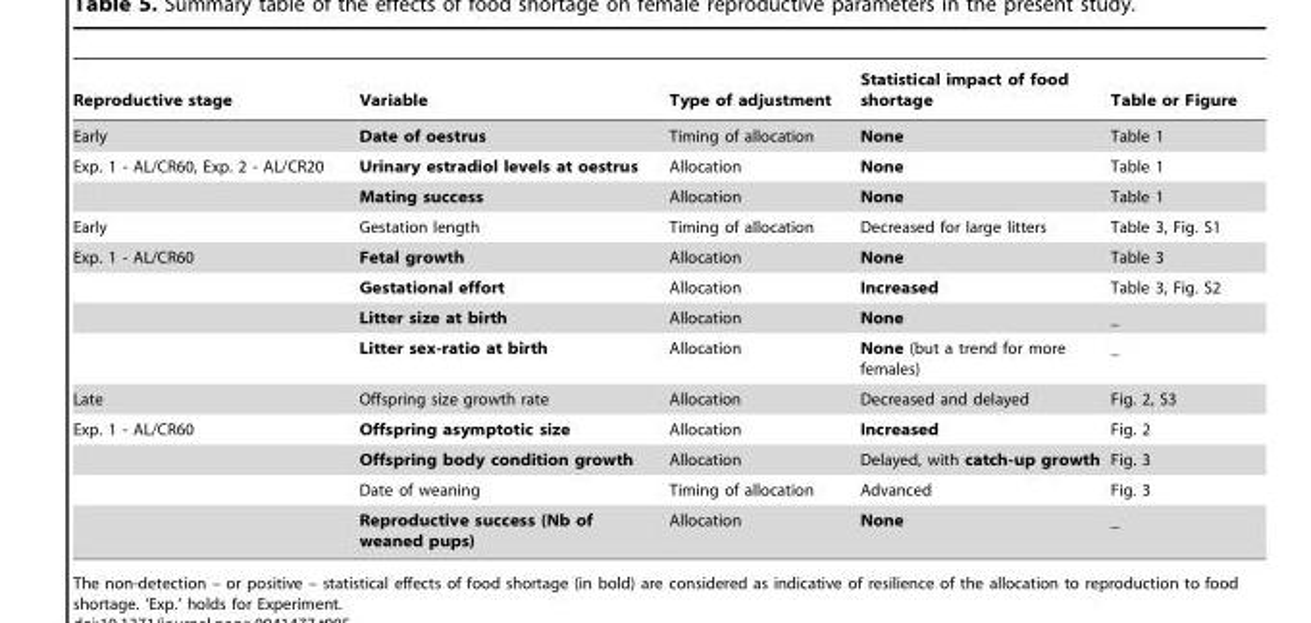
<table><thead><tr><td>Reproductive stage</td><td>Variable</td><td>Type of adjustment</td><td>Statistical impact of food shortage</td><td>Table or Figure</td></tr></thead><tbody><tr><td>Early</td><td>Date of oestrus</td><td>Timing of allocation</td><td>None</td><td>Table 1</td></tr><tr><td rowspan="2">Exp. 1 - AL/CR60, Exp. 2 - AL/CR20</td><td>Urinary estradiol levels at oestrus</td><td>Allocation</td><td>None</td><td>Table 1</td></tr><tr><td>Mating success</td><td>Allocation</td><td>None</td><td>Table 1</td></tr><tr><td>Early</td><td>Gestation length</td><td>Timing of allocation</td><td>Decreased for large litters</td><td>Table 3, Fig. S1</td></tr><tr><td rowspan="4">Exp. 1 - AL/CR60</td><td>Fetal growth</td><td>Allocation</td><td>None</td><td>Table 3</td></tr><tr><td>Gestational effort</td><td>Allocation</td><td>Increased</td><td>Table 3, Fig. S2</td></tr><tr><td>Litter size at birth</td><td>Allocation</td><td>None</td><td>_</td></tr><tr><td>Litter sex-ratio at birth</td><td>Allocation</td><td>None (but a trend for more females)</td><td>_</td></tr><tr><td>Late</td><td>Offspring size growth rate</td><td>Allocation</td><td>Decreased and delayed</td><td>Fig. 2, S3</td></tr><tr><td rowspan="4">Exp. 1 - AL/CR60</td><td>Offspring asymptotic size</td><td>Allocation</td><td>Increased</td><td>Fig. 2</td></tr><tr><td>Offspring body condition growth</td><td>Allocation</td><td>Delayed, with catch-up growth</td><td>Fig. 3</td></tr><tr><td>Date of weaning</td><td>Timing of allocation</td><td>Advanced</td><td>Fig. 3</td></tr><tr><td>Reproductive success (Nb of weaned pups)</td><td>Allocation</td><td>None</td><td>_</td></tr></tbody></table>